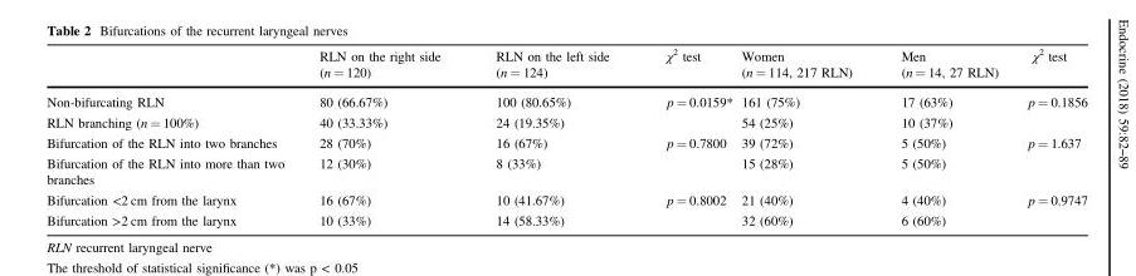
<table><thead><tr><td></td><td>RLN on the right side (n = 120)</td><td>RLN on the left side (n = 124)</td><td>χ<sup>2</sup> test</td><td>Women (n = 114, 217 RLN)</td><td>Men (n = 14, 27 RLN)</td><td>χ<sup>2</sup> test</td></tr></thead><tbody><tr><td>Non-bifurcating RLN</td><td>80 (66.67%)</td><td>100 (80.65%)</td><td>p = 0.0159*</td><td>161 (75%)</td><td>17 (63%)</td><td>p = 0.1856</td></tr><tr><td>RLN branching (n = 100%)</td><td>40 (33.33%)</td><td>24 (19.35%)</td><td></td><td>54 (25%)</td><td>10 (37%)</td><td></td></tr><tr><td>Bifurcation of the RLN into two branches</td><td>28 (70%)</td><td>16 (67%)</td><td>p = 0.7800</td><td>39 (72%)</td><td>5 (50%)</td><td>p = 1.637</td></tr><tr><td>Bifurcation of the RLN into more than two branches</td><td>12 (30%)</td><td>8 (33%)</td><td></td><td>15 (28%)</td><td>5 (50%)</td><td></td></tr><tr><td>Bifurcation &lt;2 cm from the larynx</td><td>16 (67%)</td><td>10 (41.67%)</td><td>p = 0.8002</td><td>21 (40%)</td><td>4 (40%)</td><td>p = 0.9747</td></tr><tr><td>Bifurcation &gt;2 cm from the larynx</td><td>10 (33%)</td><td>14 (58.33%)</td><td></td><td>32 (60%)</td><td>6 (60%)</td><td></td></tr></tbody></table>